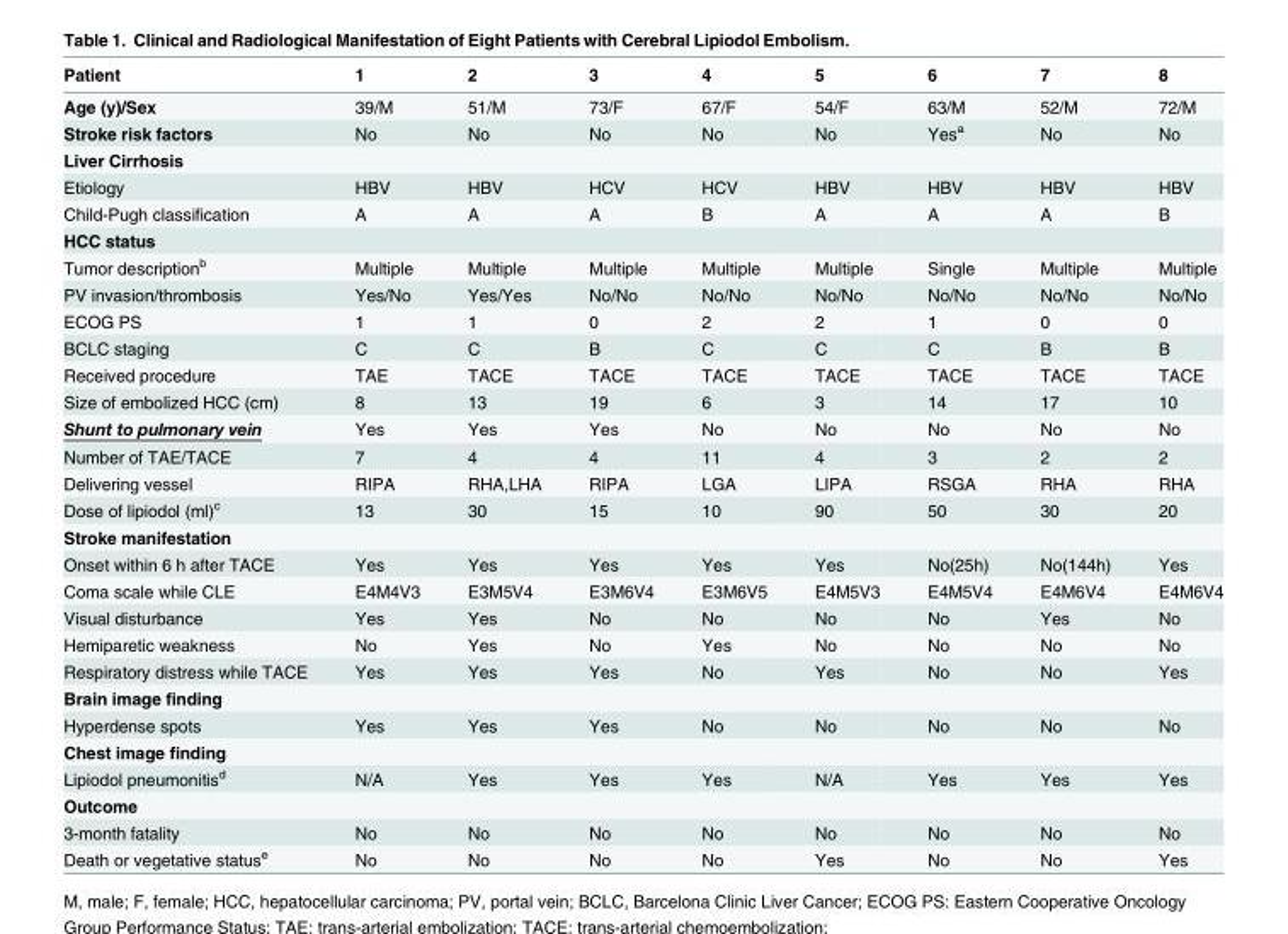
<table><thead><tr><td>Patient</td><td>1</td><td>2</td><td>3</td><td>4</td><td>5</td><td>6</td><td>7</td><td>8</td></tr></thead><tbody><tr><td>Age (y)/Sex</td><td>39/M</td><td>51/M</td><td>73/F</td><td>67/F</td><td>54/F</td><td>63/M</td><td>52/M</td><td>72/M</td></tr><tr><td>Stroke risk factors</td><td>No</td><td>No</td><td>No</td><td>No</td><td>No</td><td>Yes<sup>a</sup></td><td>No</td><td>No</td></tr><tr><td colspan="9">Liver Cirrhosis</td></tr><tr><td>Etiology</td><td>HBV</td><td>HBV</td><td>HCV</td><td>HCV</td><td>HBV</td><td>HBV</td><td>HBV</td><td>HBV</td></tr><tr><td>Child-Pugh classification</td><td>A</td><td>A</td><td>A</td><td>B</td><td>A</td><td>A</td><td>A</td><td>B</td></tr><tr><td colspan="9">HCC status</td></tr><tr><td>Tumor description<sup>b</sup></td><td>Multiple</td><td>Multiple</td><td>Multiple</td><td>Multiple</td><td>Multiple</td><td>Single</td><td>Multiple</td><td>Multiple</td></tr><tr><td>PV invasion/thrombosis</td><td>Yes/No</td><td>Yes/Yes</td><td>No/No</td><td>No/No</td><td>No/No</td><td>No/No</td><td>No/No</td><td>No/No</td></tr><tr><td>ECOG PS</td><td>1</td><td>1</td><td>0</td><td>2</td><td>2</td><td>1</td><td>0</td><td>0</td></tr><tr><td>BCLC staging</td><td>C</td><td>C</td><td>B</td><td>C</td><td>C</td><td>C</td><td>B</td><td>B</td></tr><tr><td>Received procedure</td><td>TAE</td><td>TACE</td><td>TACE</td><td>TACE</td><td>TACE</td><td>TACE</td><td>TACE</td><td>TACE</td></tr><tr><td>Size of embolized HCC (cm)</td><td>8</td><td>13</td><td>19</td><td>6</td><td>3</td><td>14</td><td>17</td><td>10</td></tr><tr><td>Shunt to pulmonary vein</td><td>Yes</td><td>Yes</td><td>Yes</td><td>No</td><td>No</td><td>No</td><td>No</td><td>No</td></tr><tr><td>Number of TAE/TACE</td><td>7</td><td>4</td><td>4</td><td>11</td><td>4</td><td>3</td><td>2</td><td>2</td></tr><tr><td>Delivering vessel</td><td>RIPA</td><td>RHA,LHA</td><td>RIPA</td><td>LGA</td><td>LIPA</td><td>RSGA</td><td>RHA</td><td>RHA</td></tr><tr><td>Dose of lipiodol (ml)<sup>c</sup></td><td>13</td><td>30</td><td>15</td><td>10</td><td>90</td><td>50</td><td>30</td><td>20</td></tr><tr><td colspan="9">Stroke manifestation</td></tr><tr><td>Onset within 6 h after TACE</td><td>Yes</td><td>Yes</td><td>Yes</td><td>Yes</td><td>Yes</td><td>No(25h)</td><td>No(144h)</td><td>Yes</td></tr><tr><td>Coma scale while CLE</td><td>E4M4V3</td><td>E3M5V4</td><td>E3M6V4</td><td>E3M6V5</td><td>E4M5V3</td><td>E4M5V4</td><td>E4M6V4</td><td>E4M6V4</td></tr><tr><td>Visual disturbance</td><td>Yes</td><td>Yes</td><td>No</td><td>No</td><td>No</td><td>No</td><td>Yes</td><td>No</td></tr><tr><td>Hemiparetic weakness</td><td>No</td><td>Yes</td><td>No</td><td>Yes</td><td>No</td><td>No</td><td>No</td><td>No</td></tr><tr><td>Respiratory distress while TACE</td><td>Yes</td><td>Yes</td><td>Yes</td><td>No</td><td>Yes</td><td>No</td><td>No</td><td>Yes</td></tr><tr><td colspan="9">Brain image finding</td></tr><tr><td>Hyperdense spots</td><td>Yes</td><td>Yes</td><td>Yes</td><td>No</td><td>No</td><td>No</td><td>No</td><td>No</td></tr><tr><td colspan="9">Chest image finding</td></tr><tr><td>Lipiodol pneumonitis<sup>d</sup></td><td>N/A</td><td>Yes</td><td>Yes</td><td>Yes</td><td>N/A</td><td>Yes</td><td>Yes</td><td>Yes</td></tr><tr><td colspan="9">Outcome</td></tr><tr><td>3-month fatality</td><td>No</td><td>No</td><td>No</td><td>No</td><td>No</td><td>No</td><td>No</td><td>No</td></tr><tr><td>Death or vegetative status<sup>e</sup></td><td>No</td><td>No</td><td>No</td><td>No</td><td>Yes</td><td>No</td><td>No</td><td>Yes</td></tr></tbody></table>